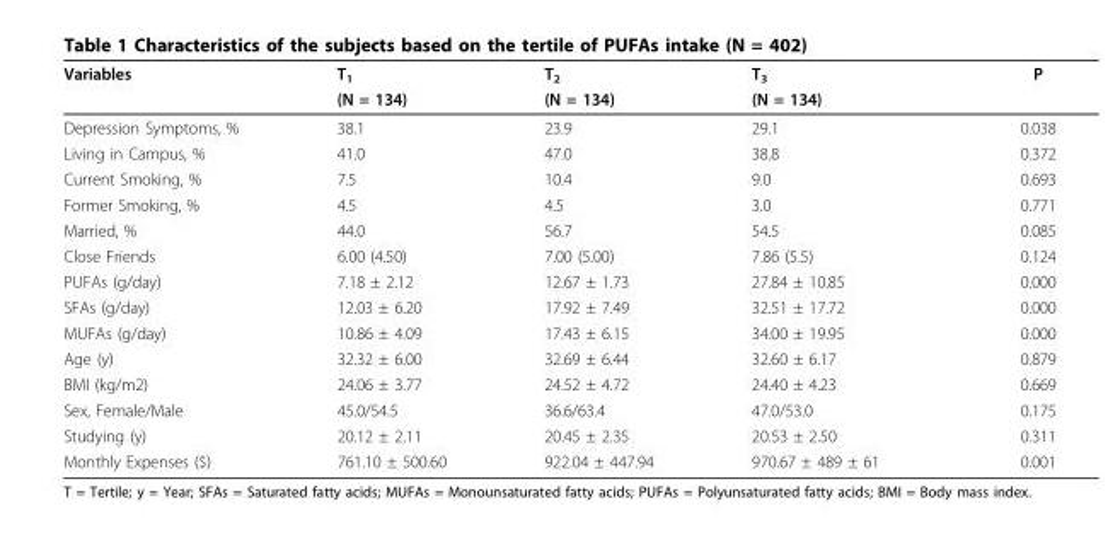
<table><thead><tr><td rowspan="2">Variables</td><td rowspan="2">T<sub>1</sub> (N = 134)</td><td rowspan="2">T<sub>2</sub> (N = 134)</td><td rowspan="2">T<sub>3</sub> (N = 134)</td><td rowspan="2">P</td></tr><tr></tr></thead><tbody><tr><td>Depression Symptoms, %</td><td>38.1</td><td>23.9</td><td>29.1</td><td>0.038</td></tr><tr><td>Living in Campus, %</td><td>41.0</td><td>47.0</td><td>38.8</td><td>0.372</td></tr><tr><td>Current Smoking, %</td><td>7.5</td><td>10.4</td><td>9.0</td><td>0.693</td></tr><tr><td>Former Smoking, %</td><td>4.5</td><td>4.5</td><td>3.0</td><td>0.771</td></tr><tr><td>Married, %</td><td>44.0</td><td>56.7</td><td>54.5</td><td>0.085</td></tr><tr><td>Close Friends</td><td>6.00 (4.50)</td><td>7.00 (5.00)</td><td>7.86 (5.5)</td><td>0.124</td></tr><tr><td>PUFAs (g/day)</td><td>7.18 ± 2.12</td><td>12.67 ± 1.73</td><td>27.84 ± 10.85</td><td>0.000</td></tr><tr><td>SFAs (g/day)</td><td>12.03 ± 6.20</td><td>17.92 ± 7.49</td><td>32.51 ± 17.72</td><td>0.000</td></tr><tr><td>MUFAs (g/day)</td><td>10.86 ± 4.09</td><td>17.43 ± 6.15</td><td>34.00 ± 19.95</td><td>0.000</td></tr><tr><td>Age (y)</td><td>32.32 ± 6.00</td><td>32.69 ± 6.44</td><td>32.60 ± 6.17</td><td>0.879</td></tr><tr><td>BMI (kg/m2)</td><td>24.06 ± 3.77</td><td>24.52 ± 4.72</td><td>24.40 ± 4.23</td><td>0.669</td></tr><tr><td>Sex, Female/Male</td><td>45.0/54.5</td><td>36.6/63.4</td><td>47.0/53.0</td><td>0.175</td></tr><tr><td>Studying (y)</td><td>20.12 ± 2.11</td><td>20.45 ± 2.35</td><td>20.53 ± 2.50</td><td>0.311</td></tr><tr><td>Monthly Expenses ($)</td><td>761.10 ± 500.60</td><td>922.04 ± 447.94</td><td>970.67 ± 489 ± 61</td><td>0.001</td></tr></tbody></table>